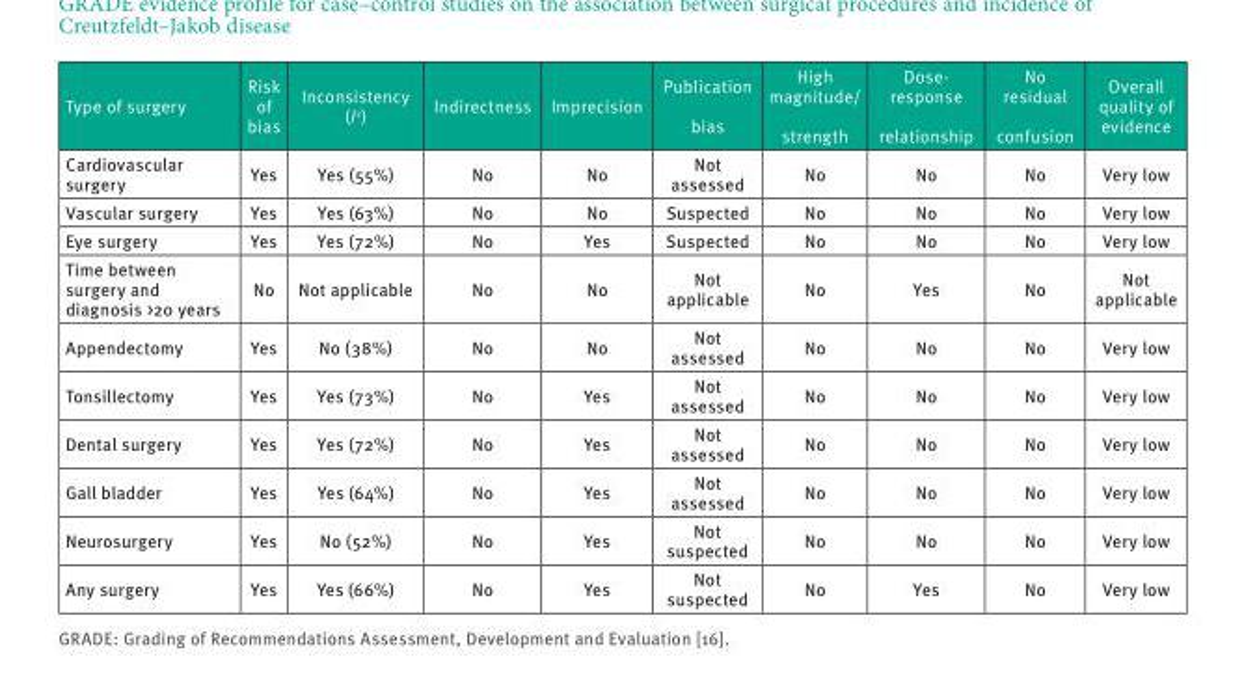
<table><thead><tr><td>Type of surgery</td><td>Risk of bias</td><td>Inconsistency (I<sup>2</sup>)</td><td>Indirectness</td><td>Imprecision</td><td>Publication bias</td><td>High magnitude/ strength</td><td>Dose- response relationship</td><td>No residual confusion</td><td>Overall quality of evidence</td></tr></thead><tbody><tr><td>Cardiovascular surgery</td><td>Yes</td><td>Yes (55%)</td><td>No</td><td>No</td><td>Not assessed</td><td>No</td><td>No</td><td>No</td><td>Very low</td></tr><tr><td>Vascular surgery</td><td>Yes</td><td>Yes (63%)</td><td>No</td><td>No</td><td>Suspected</td><td>No</td><td>No</td><td>No</td><td>Very low</td></tr><tr><td>Eye surgery</td><td>Yes</td><td>Yes (72%)</td><td>No</td><td>Yes</td><td>Suspected</td><td>No</td><td>No</td><td>No</td><td>Very low</td></tr><tr><td>Time between surgery and diagnosis &gt;20 years</td><td>No</td><td>Not applicable</td><td>No</td><td>No</td><td>Not applicable</td><td>No</td><td>Yes</td><td>No</td><td>Not applicable</td></tr><tr><td>Appendectomy</td><td>Yes</td><td>No (38%)</td><td>No</td><td>No</td><td>Not assessed</td><td>No</td><td>No</td><td>No</td><td>Very low</td></tr><tr><td>Tonsillectomy</td><td>Yes</td><td>Yes (73%)</td><td>No</td><td>Yes</td><td>Not assessed</td><td>No</td><td>No</td><td>No</td><td>Very low</td></tr><tr><td>Dental surgery</td><td>Yes</td><td>Yes (72%)</td><td>No</td><td>Yes</td><td>Not assessed</td><td>No</td><td>No</td><td>No</td><td>Very low</td></tr><tr><td>Gall bladder</td><td>Yes</td><td>Yes (64%)</td><td>No</td><td>Yes</td><td>Not assessed</td><td>No</td><td>No</td><td>No</td><td>Very low</td></tr><tr><td>Neurosurgery</td><td>Yes</td><td>No (52%)</td><td>No</td><td>Yes</td><td>Not suspected</td><td>No</td><td>No</td><td>No</td><td>Very low</td></tr><tr><td>Any surgery</td><td>Yes</td><td>Yes (66%)</td><td>No</td><td>Yes</td><td>Not suspected</td><td>No</td><td>Yes</td><td>No</td><td>Very low</td></tr></tbody></table>